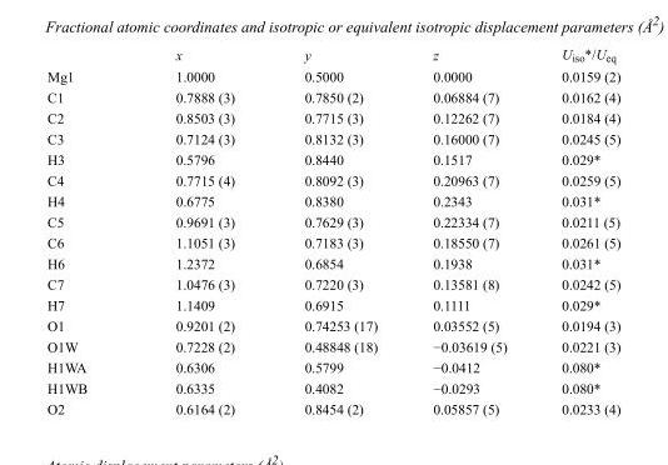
<table><thead><tr><td></td><td>x</td><td>y</td><td>z</td><td>U<sub>iso</sub>*/U<sub>eq</sub></td></tr></thead><tbody><tr><td>Mg1</td><td>1.0000</td><td>0.5000</td><td>0.0000</td><td>0.0159 (2)</td></tr><tr><td>C1</td><td>0.7888 (3)</td><td>0.7850 (2)</td><td>0.06884 (7)</td><td>0.0162 (4)</td></tr><tr><td>C2</td><td>0.8503 (3)</td><td>0.7715 (3)</td><td>0.12262 (7)</td><td>0.0184 (4)</td></tr><tr><td>C3</td><td>0.7124 (3)</td><td>0.8132 (3)</td><td>0.16000 (7)</td><td>0.0245 (5)</td></tr><tr><td>H3</td><td>0.5796</td><td>0.8440</td><td>0.1517</td><td>0.029*</td></tr><tr><td>C4</td><td>0.7715 (4)</td><td>0.8092 (3)</td><td>0.20963 (7)</td><td>0.0259 (5)</td></tr><tr><td>H4</td><td>0.6775</td><td>0.8380</td><td>0.2343</td><td>0.031*</td></tr><tr><td>C5</td><td>0.9691 (3)</td><td>0.7629 (3)</td><td>0.22334 (7)</td><td>0.0211 (5)</td></tr><tr><td>C6</td><td>1.1051 (3)</td><td>0.7183 (3)</td><td>0.18550 (7)</td><td>0.0261 (5)</td></tr><tr><td>H6</td><td>1.2372</td><td>0.6854</td><td>0.1938</td><td>0.031*</td></tr><tr><td>C7</td><td>1.0476 (3)</td><td>0.7220 (3)</td><td>0.13581 (8)</td><td>0.0242 (5)</td></tr><tr><td>H7</td><td>1.1409</td><td>0.6915</td><td>0.1111</td><td>0.029*</td></tr><tr><td>O1</td><td>0.9201 (2)</td><td>0.74253 (17)</td><td>0.03552 (5)</td><td>0.0194 (3)</td></tr><tr><td>O1W</td><td>0.7228 (2)</td><td>0.48848 (18)</td><td>−0.03619 (5)</td><td>0.0221 (3)</td></tr><tr><td>H1WA</td><td>0.6306</td><td>0.5799</td><td>−0.0412</td><td>0.080*</td></tr><tr><td>H1WB</td><td>0.6335</td><td>0.4082</td><td>−0.0293</td><td>0.080*</td></tr><tr><td>O2</td><td>0.6164 (2)</td><td>0.8454 (2)</td><td>0.05857 (5)</td><td>0.0233 (4)</td></tr></tbody></table>